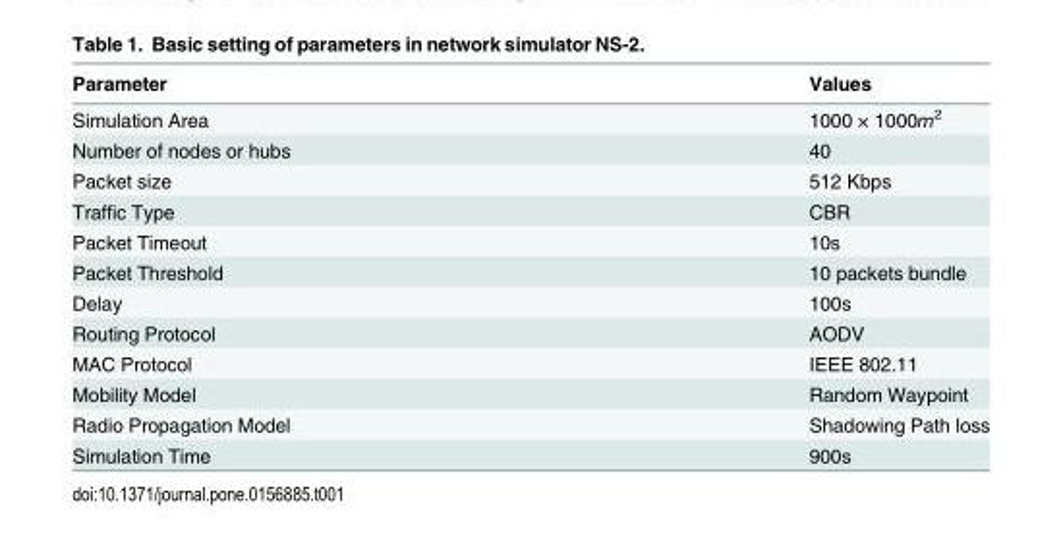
<table><thead><tr><td>Parameter</td><td>Values</td></tr></thead><tbody><tr><td>Simulation Area</td><td>1000 × 1000m2</td></tr><tr><td>Number of nodes or hubs</td><td>40</td></tr><tr><td>Packet size</td><td>512 Kbps</td></tr><tr><td>Traffic Type</td><td>CBR</td></tr><tr><td>Packet Timeout</td><td>10s</td></tr><tr><td>Packet Threshold</td><td>10 packets bundle</td></tr><tr><td>Delay</td><td>100s</td></tr><tr><td>Routing Protocol</td><td>AODV</td></tr><tr><td>MAC Protocol</td><td>IEEE 802.11</td></tr><tr><td>Mobility Model</td><td>Random Waypoint</td></tr><tr><td>Radio Propagation Model</td><td>Shadowing Path loss</td></tr><tr><td>Simulation Time</td><td>900s</td></tr></tbody></table>